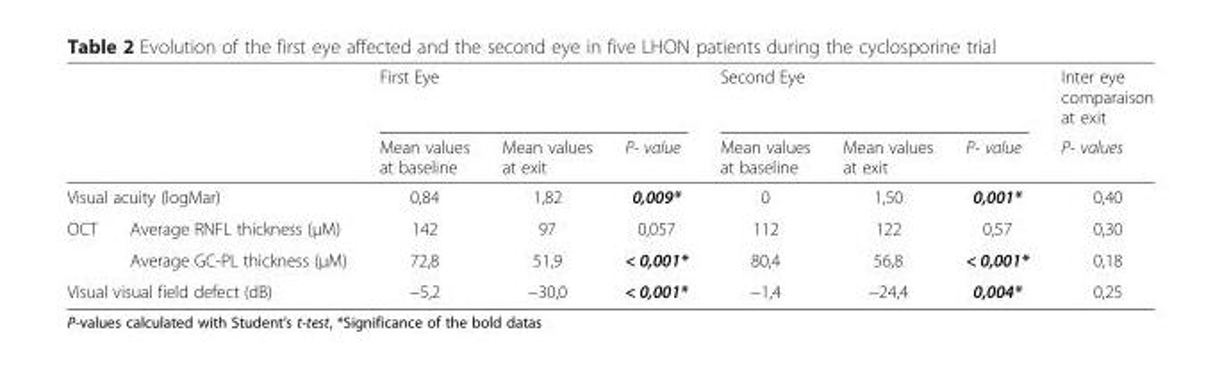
<table><thead><tr><td rowspan="2"></td><td rowspan="2"></td><td colspan="3">First Eye</td><td colspan="3">Second Eye</td><td rowspan="2">Inter eye comparaison at exit P- values</td></tr><tr><td>Mean values at baseline</td><td>Mean values at exit</td><td>P- value</td><td>Mean values at baseline</td><td>Mean values at exit</td><td>P- value</td></tr></thead><tbody><tr><td colspan="2">Visual acuity (logMar)</td><td>0,84</td><td>1,82</td><td>0,009*</td><td>0</td><td>1,50</td><td>0,001*</td><td>0,40</td></tr><tr><td rowspan="2">OCT</td><td>Average RNFL thickness (μM)</td><td>142</td><td>97</td><td>0,057</td><td>112</td><td>122</td><td>0,57</td><td>0,30</td></tr><tr><td>Average GC-PL thickness (μM)</td><td>72,8</td><td>51,9</td><td>&lt; 0,001*</td><td>80,4</td><td>56,8</td><td>&lt; 0,001*</td><td>0,18</td></tr><tr><td colspan="2">Visual visual field defect (dB)</td><td>−5,2</td><td>−30,0</td><td>&lt; 0,001*</td><td>−1,4</td><td>−24,4</td><td>0,004*</td><td>0,25</td></tr></tbody></table>